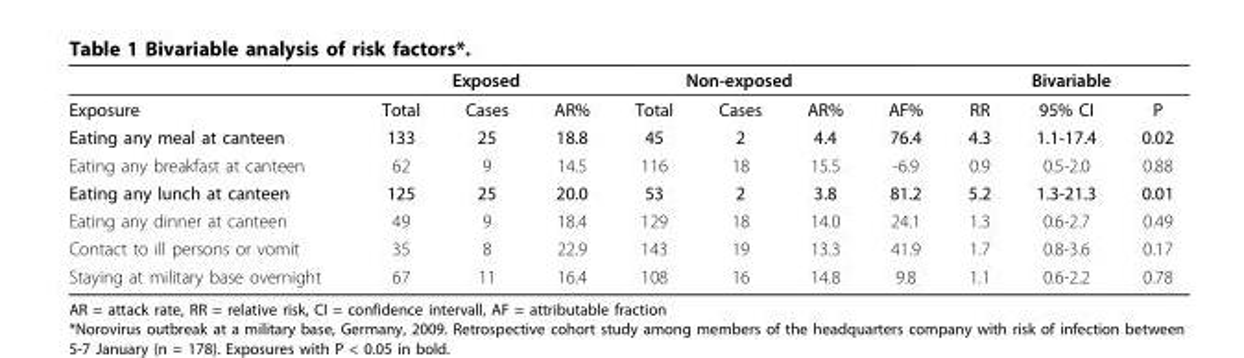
<table><thead><tr><td rowspan="2">Exposure</td><td colspan="3">Exposed</td><td colspan="3">Non-exposed</td><td rowspan="2">AF%</td><td colspan="3">Bivariable</td></tr><tr><td>Total</td><td>Cases</td><td>AR%</td><td>Total</td><td>Cases</td><td>AR%</td><td>RR</td><td>95% CI</td><td>P</td></tr></thead><tbody><tr><td>Eating any meal at canteen</td><td>133</td><td>25</td><td>18.8</td><td>45</td><td>2</td><td>4.4</td><td>76.4</td><td>4.3</td><td>1.1-17.4</td><td>0.02</td></tr><tr><td>Eating any breakfast at canteen</td><td>62</td><td>9</td><td>14.5</td><td>116</td><td>18</td><td>15.5</td><td>-6.9</td><td>0.9</td><td>0.5-2.0</td><td>0.88</td></tr><tr><td>Eating any lunch at canteen</td><td>125</td><td>25</td><td>20.0</td><td>53</td><td>2</td><td>3.8</td><td>81.2</td><td>5.2</td><td>1.3-21.3</td><td>0.01</td></tr><tr><td>Eating any dinner at canteen</td><td>49</td><td>9</td><td>18.4</td><td>129</td><td>18</td><td>14.0</td><td>24.1</td><td>1.3</td><td>0.6-2.7</td><td>0.49</td></tr><tr><td>Contact to ill persons or vomit</td><td>35</td><td>8</td><td>22.9</td><td>143</td><td>19</td><td>13.3</td><td>41.9</td><td>1.7</td><td>0.8-3.6</td><td>0.17</td></tr><tr><td>Staying at military base overnight</td><td>67</td><td>11</td><td>16.4</td><td>108</td><td>16</td><td>14.8</td><td>9.8</td><td>1.1</td><td>0.6-2.2</td><td>0.78</td></tr></tbody></table>